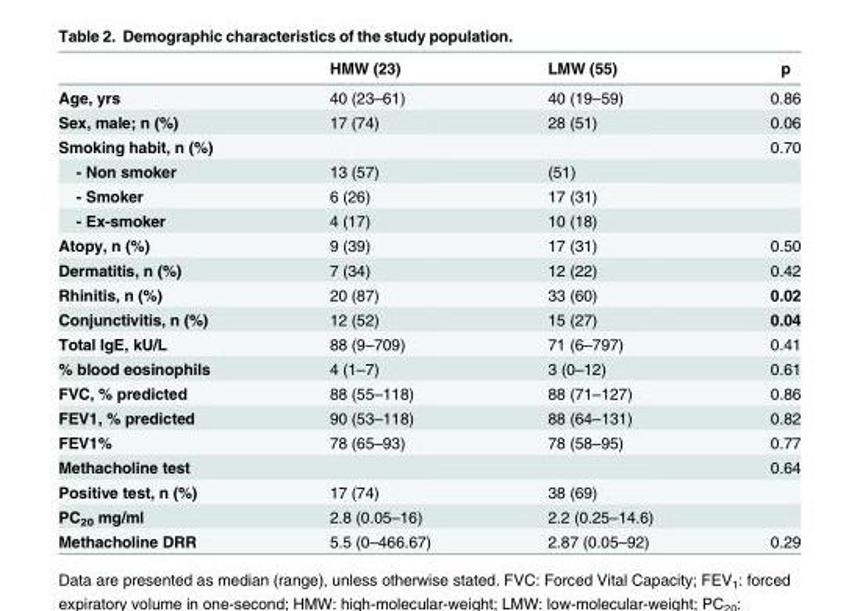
<table><thead><tr><td></td><td>HMW (23)</td><td>LMW (55)</td><td>p</td></tr></thead><tbody><tr><td>Age, yrs</td><td>40 (23–61)</td><td>40 (19–59)</td><td>0.86</td></tr><tr><td>Sex, male; n (%)</td><td>17 (74)</td><td>28 (51)</td><td>0.06</td></tr><tr><td>Smoking habit, n (%)</td><td></td><td></td><td>0.70</td></tr><tr><td>- Non smoker</td><td>13 (57)</td><td>(51)</td><td></td></tr><tr><td>- Smoker</td><td>6 (26)</td><td>17 (31)</td><td></td></tr><tr><td>- Ex-smoker</td><td>4 (17)</td><td>10 (18)</td><td></td></tr><tr><td>Atopy, n (%)</td><td>9 (39)</td><td>17 (31)</td><td>0.50</td></tr><tr><td>Dermatitis, n (%)</td><td>7 (34)</td><td>12 (22)</td><td>0.42</td></tr><tr><td>Rhinitis, n (%)</td><td>20 (87)</td><td>33 (60)</td><td>0.02</td></tr><tr><td>Conjunctivitis, n (%)</td><td>12 (52)</td><td>15 (27)</td><td>0.04</td></tr><tr><td>Total IgE, kU/L</td><td>88 (9–709)</td><td>71 (6–797)</td><td>0.41</td></tr><tr><td>% blood eosinophils</td><td>4 (1–7)</td><td>3 (0–12)</td><td>0.61</td></tr><tr><td>FVC, % predicted</td><td>88 (55–118)</td><td>88 (71–127)</td><td>0.86</td></tr><tr><td>FEV1, % predicted</td><td>90 (53–118)</td><td>88 (64–131)</td><td>0.82</td></tr><tr><td>FEV1%</td><td>78 (65–93)</td><td>78 (58–95)</td><td>0.77</td></tr><tr><td>Methacholine test</td><td></td><td></td><td>0.64</td></tr><tr><td>Positive test, n (%)</td><td>17 (74)</td><td>38 (69)</td><td></td></tr><tr><td>PC<sub>20</sub> mg/ml</td><td>2.8 (0.05–16)</td><td>2.2 (0.25–14.6)</td><td></td></tr><tr><td>Methacholine DRR</td><td>5.5 (0–466.67)</td><td>2.87 (0.05–92)</td><td>0.29</td></tr></tbody></table>